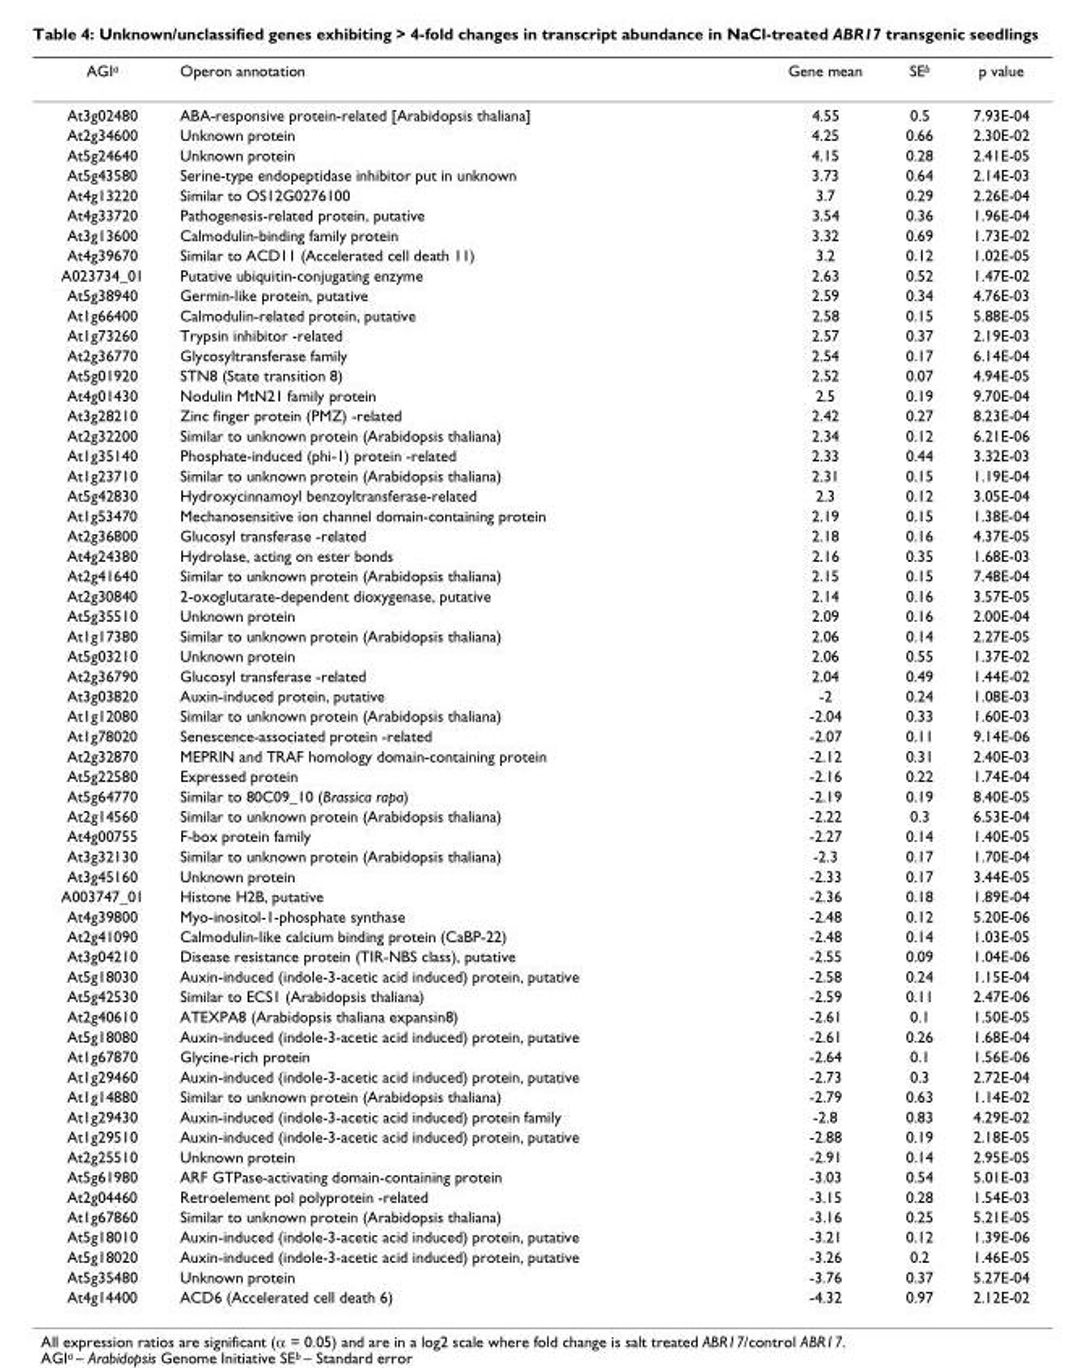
<table><thead><tr><td>AGI<sup>a</sup></td><td>Operon annotation</td><td>Gene mean</td><td>SE<sup>b</sup></td><td>p value</td></tr></thead><tbody><tr><td>At3g02480</td><td>ABA-responsive protein-related [Arabidopsis thaliana]</td><td>4.55</td><td>0.5</td><td>7.93E-04</td></tr><tr><td>At2g34600</td><td>Unknown protein</td><td>4.25</td><td>0.66</td><td>2.30E-02</td></tr><tr><td>At5g24640</td><td>Unknown protein</td><td>4.15</td><td>0.28</td><td>2.41E-05</td></tr><tr><td>At5g43580</td><td>Serine-type endopeptidase inhibitor put in unknown</td><td>3.73</td><td>0.64</td><td>2.14E-03</td></tr><tr><td>At4g13220</td><td>Similar to OS12G0276100</td><td>3.7</td><td>0.29</td><td>2.26E-04</td></tr><tr><td>At4g33720</td><td>Pathogenesis-related protein, putative</td><td>3.54</td><td>0.36</td><td>1.96E-04</td></tr><tr><td>At3g13600</td><td>Calmodulin-binding family protein</td><td>3.32</td><td>0.69</td><td>1.73E-02</td></tr><tr><td>At4g39670</td><td>Similar to ACD11 (Accelerated cell death 11)</td><td>3.2</td><td>0.12</td><td>1.02E-05</td></tr><tr><td>A023734_01</td><td>Putative ubiquitin-conjugating enzyme</td><td>2.63</td><td>0.52</td><td>1.47E-02</td></tr><tr><td>At5g38940</td><td>Germin-like protein, putative</td><td>2.59</td><td>0.34</td><td>4.76E-03</td></tr><tr><td>At1g66400</td><td>Calmodulin-related protein, putative</td><td>2.58</td><td>0.15</td><td>5.88E-05</td></tr><tr><td>At1g73260</td><td>Trypsin inhibitor -related</td><td>2.57</td><td>0.37</td><td>2.19E-03</td></tr><tr><td>At2g36770</td><td>Glycosyltransferase family</td><td>2.54</td><td>0.17</td><td>6.14E-04</td></tr><tr><td>At5g01920</td><td>STN8 (State transition 8)</td><td>2.52</td><td>0.07</td><td>4.94E-05</td></tr><tr><td>At4g01430</td><td>Nodulin MtN21 family protein</td><td>2.5</td><td>0.19</td><td>9.70E-04</td></tr><tr><td>At3g28210</td><td>Zinc finger protein (PMZ) -related</td><td>2.42</td><td>0.27</td><td>8.23E-04</td></tr><tr><td>At2g32200</td><td>Similar to unknown protein (Arabidopsis thaliana)</td><td>2.34</td><td>0.12</td><td>6.21E-06</td></tr><tr><td>At1g35140</td><td>Phosphate-induced (phi-1) protein -related</td><td>2.33</td><td>0.44</td><td>3.32E-03</td></tr><tr><td>At1g23710</td><td>Similar to unknown protein (Arabidopsis thaliana)</td><td>2.31</td><td>0.15</td><td>1.19E-04</td></tr><tr><td>At5g42830</td><td>Hydroxycinnamoyl benzoyltransferase-related</td><td>2.3</td><td>0.12</td><td>3.05E-04</td></tr><tr><td>At1g53470</td><td>Mechanosensitive ion channel domain-containing protein</td><td>2.19</td><td>0.15</td><td>1.38E-04</td></tr><tr><td>At2g36800</td><td>Glucosyl transferase -related</td><td>2.18</td><td>0.16</td><td>4.37E-05</td></tr><tr><td>At4g24380</td><td>Hydrolase, acting on ester bonds</td><td>2.16</td><td>0.35</td><td>1.68E-03</td></tr><tr><td>At2g41640</td><td>Similar to unknown protein (Arabidopsis thaliana)</td><td>2.15</td><td>0.15</td><td>7.48E-04</td></tr><tr><td>At2g30840</td><td>2-oxoglutarate-dependent dioxygenase, putative</td><td>2.14</td><td>0.16</td><td>3.57E-05</td></tr><tr><td>At5g35510</td><td>Unknown protein</td><td>2.09</td><td>0.16</td><td>2.00E-04</td></tr><tr><td>At1g17380</td><td>Similar to unknown protein (Arabidopsis thaliana)</td><td>2.06</td><td>0.14</td><td>2.27E-05</td></tr><tr><td>At5g03210</td><td>Unknown protein</td><td>2.06</td><td>0.55</td><td>1.37E-02</td></tr><tr><td>At2g36790</td><td>Glucosyl transferase -related</td><td>2.04</td><td>0.49</td><td>1.44E-02</td></tr><tr><td>At3g03820</td><td>Auxin-induced protein, putative</td><td>-2</td><td>0.24</td><td>1.08E-03</td></tr><tr><td>At1g12080</td><td>Similar to unknown protein (Arabidopsis thaliana)</td><td>-2.04</td><td>0.33</td><td>1.60E-03</td></tr><tr><td>At1g78020</td><td>Senescence-associated protein -related</td><td>-2.07</td><td>0.11</td><td>9.14E-06</td></tr><tr><td>At2g32870</td><td>MEPRIN and TRAF homology domain-containing protein</td><td>-2.12</td><td>0.31</td><td>2.40E-03</td></tr><tr><td>At5g22580</td><td>Expressed protein</td><td>-2.16</td><td>0.22</td><td>1.74E-04</td></tr><tr><td>At5g64770</td><td>Similar to 80C09_10 (Brassica rapa)</td><td>-2.19</td><td>0.19</td><td>8.40E-05</td></tr><tr><td>At2g14560</td><td>Similar to unknown protein (Arabidopsis thaliana)</td><td>-2.22</td><td>0.3</td><td>6.53E-04</td></tr><tr><td>At4g00755</td><td>F-box protein family</td><td>-2.27</td><td>0.14</td><td>1.40E-05</td></tr><tr><td>At3g32130</td><td>Similar to unknown protein (Arabidopsis thaliana)</td><td>-2.3</td><td>0.17</td><td>1.70E-04</td></tr><tr><td>At3g45160</td><td>Unknown protein</td><td>-2.33</td><td>0.17</td><td>3.44E-05</td></tr><tr><td>A003747_01</td><td>Histone H2B, putative</td><td>-2.36</td><td>0.18</td><td>1.89E-04</td></tr><tr><td>At4g39800</td><td>Myo-inositol-1-phosphate synthase</td><td>-2.48</td><td>0.12</td><td>5.20E-06</td></tr><tr><td>At2g41090</td><td>Calmodulin-like calcium binding protein (CaBP-22)</td><td>-2.48</td><td>0.14</td><td>1.03E-05</td></tr><tr><td>At3g04210</td><td>Disease resistance protein (TIR-NBS class), putative</td><td>-2.55</td><td>0.09</td><td>1.04E-06</td></tr><tr><td>At5g18030</td><td>Auxin-induced (indole-3-acetic acid induced) protein, putative</td><td>-2.58</td><td>0.24</td><td>1.15E-04</td></tr><tr><td>At5g42530</td><td>Similar to ECS1 (Arabidopsis thaliana)</td><td>-2.59</td><td>0.11</td><td>2.47E-06</td></tr><tr><td>At2g40610</td><td>ATEXPA8 (Arabidopsis thaliana expansin8)</td><td>-2.61</td><td>0.1</td><td>1.50E-05</td></tr><tr><td>At5g18080</td><td>Auxin-induced (indole-3-acetic acid induced) protein, putative</td><td>-2.61</td><td>0.26</td><td>1.68E-04</td></tr><tr><td>At1g67870</td><td>Glycine-rich protein</td><td>-2.64</td><td>0.1</td><td>1.56E-06</td></tr><tr><td>At1g29460</td><td>Auxin-induced (indole-3-acetic acid induced) protein, putative</td><td>-2.73</td><td>0.3</td><td>2.72E-04</td></tr><tr><td>At1g14880</td><td>Similar to unknown protein (Arabidopsis thaliana)</td><td>-2.79</td><td>0.63</td><td>1.14E-02</td></tr><tr><td>At1g29430</td><td>Auxin-induced (indole-3-acetic acid induced) protein family</td><td>-2.8</td><td>0.83</td><td>4.29E-02</td></tr><tr><td>At1g29510</td><td>Auxin-induced (indole-3-acetic acid induced) protein, putative</td><td>-2.88</td><td>0.19</td><td>2.18E-05</td></tr><tr><td>At2g25510</td><td>Unknown protein</td><td>-2.91</td><td>0.14</td><td>2.95E-05</td></tr><tr><td>At5g61980</td><td>ARF GTPase-activating domain-containing protein</td><td>-3.03</td><td>0.54</td><td>5.01E-03</td></tr><tr><td>At2g04460</td><td>Retroelement pol polyprotein -related</td><td>-3.15</td><td>0.28</td><td>1.54E-03</td></tr><tr><td>At1g67860</td><td>Similar to unknown protein (Arabidopsis thaliana)</td><td>-3.16</td><td>0.25</td><td>5.21E-05</td></tr><tr><td>At5g18010</td><td>Auxin-induced (indole-3-acetic acid induced) protein, putative</td><td>-3.21</td><td>0.12</td><td>1.39E-06</td></tr><tr><td>At5g18020</td><td>Auxin-induced (indole-3-acetic acid induced) protein, putative</td><td>-3.26</td><td>0.2</td><td>1.46E-05</td></tr><tr><td>At5g35480</td><td>Unknown protein</td><td>-3.76</td><td>0.37</td><td>5.27E-04</td></tr><tr><td>At4g14400</td><td>ACD6 (Accelerated cell death 6)</td><td>-4.32</td><td>0.97</td><td>2.12E-02</td></tr></tbody></table>